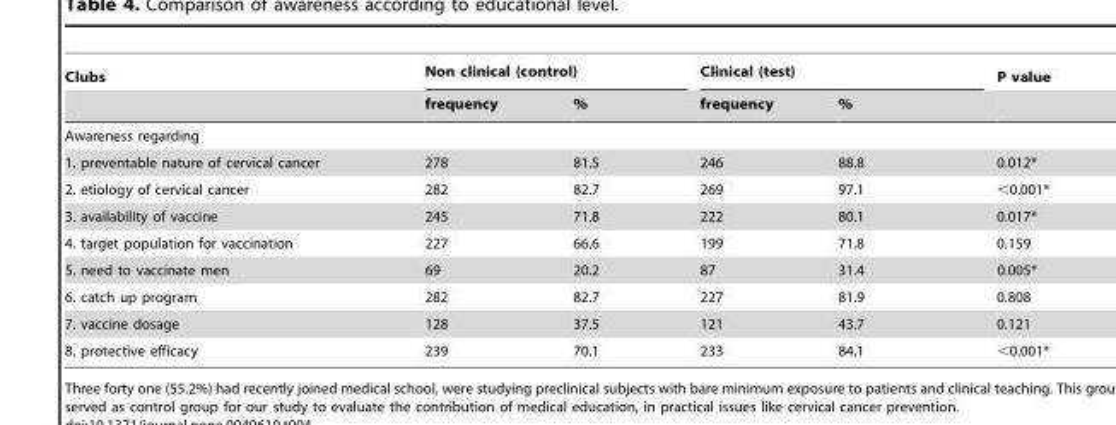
<table><thead><tr><td rowspan="2">Clubs</td><td colspan="2">Non clinical (control)</td><td colspan="2">Clinical (test)</td><td rowspan="2">P value</td></tr><tr><td>frequency</td><td>%</td><td>frequency</td><td>%</td></tr></thead><tbody><tr><td colspan="6">Awareness regarding</td></tr><tr><td>1. preventable nature of cervical cancer</td><td>278</td><td>81.5</td><td>246</td><td>88.8</td><td>0.012*</td></tr><tr><td>2. etiology of cervical cancer</td><td>282</td><td>82.7</td><td>269</td><td>97.1</td><td>&lt;0.001*</td></tr><tr><td>3. availability of vaccine</td><td>245</td><td>71.8</td><td>222</td><td>80.1</td><td>0.017*</td></tr><tr><td>4. target population for vaccination</td><td>227</td><td>66.6</td><td>199</td><td>71.8</td><td>0.159</td></tr><tr><td>5. need to vaccinate men</td><td>69</td><td>20.2</td><td>87</td><td>31.4</td><td>0.005*</td></tr><tr><td>6. catch up program</td><td>282</td><td>82.7</td><td>227</td><td>81.9</td><td>0.808</td></tr><tr><td>7. vaccine dosage</td><td>128</td><td>37.5</td><td>121</td><td>43.7</td><td>0.121</td></tr><tr><td>8. protective efficacy</td><td>239</td><td>70.1</td><td>233</td><td>84.1</td><td>&lt;0.001*</td></tr></tbody></table>